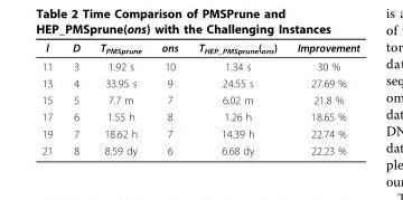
<table><thead><tr><td>l</td><td>D</td><td>T<sub>PMSprune</sub></td><td>ons</td><td>T<sub>HEP_PMSprune</sub>(<sub>ons</sub>)</td><td>Improvement</td></tr></thead><tbody><tr><td>11</td><td>3</td><td>1.92 s</td><td>10</td><td>1.34 s</td><td>30 %</td></tr><tr><td>13</td><td>4</td><td>33.95 s</td><td>9</td><td>24.55 s</td><td>27.69 %</td></tr><tr><td>15</td><td>5</td><td>7.7 m</td><td>7</td><td>6.02 m</td><td>21.8 %</td></tr><tr><td>17</td><td>6</td><td>1.55 h</td><td>8</td><td>1.26 h</td><td>18.65 %</td></tr><tr><td>19</td><td>7</td><td>18.62 h</td><td>7</td><td>14.39 h</td><td>22.74 %</td></tr><tr><td>21</td><td>8</td><td>8.59 dy</td><td>6</td><td>6.68 dy</td><td>22.23 %</td></tr></tbody></table>